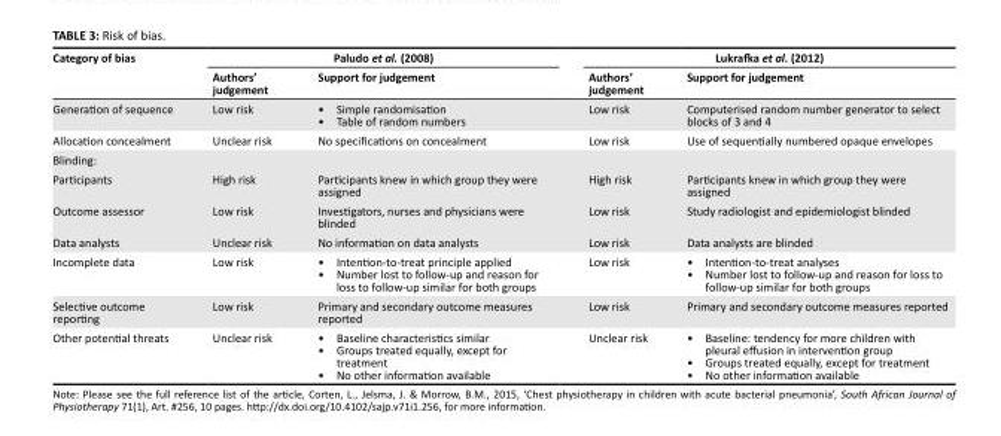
<table><thead><tr><td rowspan="2">Category of bias</td><td colspan="2">Paludo et al. (2008)</td><td colspan="2">Lukrafka et al. (2012)</td></tr><tr><td>Authors’ judgement</td><td>Support for judgement</td><td>Authors’ judgement</td><td>Support for judgement</td></tr></thead><tbody><tr><td>Generation of sequence</td><td>Low risk</td><td>• Simple randomisation • Table of random numbers</td><td>Low risk</td><td>Computerised random number generator to select blocks of 3 and 4</td></tr><tr><td>Allocation concealment</td><td>Unclear risk</td><td>No specifications on concealment</td><td>Low risk</td><td>Use of sequentially numbered opaque envelopes</td></tr><tr><td colspan="5">Blinding:</td></tr><tr><td>Participants</td><td>High risk</td><td>Participants knew in which group they were assigned</td><td>High risk</td><td>Participants knew in which group they were assigned</td></tr><tr><td>Outcome assessor</td><td>Low risk</td><td>Investigators, nurses and physicians were blinded</td><td>Low risk</td><td>Study radiologist and epidemiologist blinded</td></tr><tr><td>Data analysts</td><td>Unclear risk</td><td>No information on data analysts</td><td>Low risk</td><td>Data analysts are blinded</td></tr><tr><td>Incomplete data</td><td>Low risk</td><td>• Intention-to-treat principle applied • Number lost to follow-up and reason for loss to follow-up similar for both groups</td><td>Low risk</td><td>• Intention-to-treat analyses • Number lost to follow-up and reason for loss to follow-up similar for both groups</td></tr><tr><td>Selective outcome reporting</td><td>Low risk</td><td>Primary and secondary outcome measures reported</td><td>Low risk</td><td>Primary and secondary outcome measures reported</td></tr><tr><td>Other potential threats</td><td>Unclear risk</td><td>• Baseline characteristics similar • Groups treated equally, except for treatment • No other information available</td><td>Unclear risk</td><td>• Baseline: tendency for more children with pleural effusion in intervention group • Groups treated equally, except for treatment • No other information available</td></tr></tbody></table>